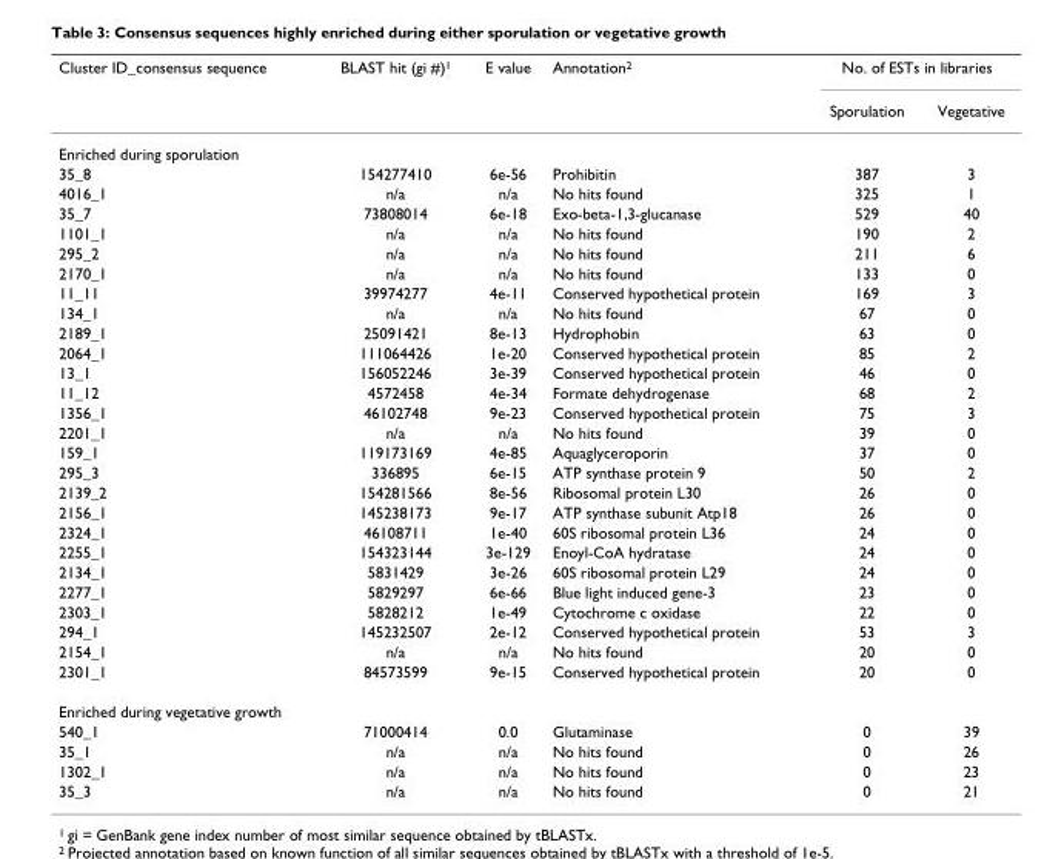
<table><thead><tr><td rowspan="2">Cluster ID_consensus sequence</td><td rowspan="2">BLAST hit (gi #)<sup>1</sup></td><td rowspan="2">E value</td><td rowspan="2">Annotation<sup>2</sup></td><td colspan="2">No. of ESTs in libraries</td></tr><tr><td>Sporulation</td><td>Vegetative</td></tr></thead><tbody><tr><td colspan="6">Enriched during sporulation</td></tr><tr><td>35_8</td><td>154277410</td><td>6e-56</td><td>Prohibitin</td><td>387</td><td>3</td></tr><tr><td>4016_1</td><td>n/a</td><td>n/a</td><td>No hits found</td><td>325</td><td>1</td></tr><tr><td>35_7</td><td>73808014</td><td>6e-18</td><td>Exo-beta-1,3-glucanase</td><td>529</td><td>40</td></tr><tr><td>1101_1</td><td>n/a</td><td>n/a</td><td>No hits found</td><td>190</td><td>2</td></tr><tr><td>295_2</td><td>n/a</td><td>n/a</td><td>No hits found</td><td>211</td><td>6</td></tr><tr><td>2170_1</td><td>n/a</td><td>n/a</td><td>No hits found</td><td>133</td><td>0</td></tr><tr><td>11_11</td><td>39974277</td><td>4e-11</td><td>Conserved hypothetical protein</td><td>169</td><td>3</td></tr><tr><td>134_1</td><td>n/a</td><td>n/a</td><td>No hits found</td><td>67</td><td>0</td></tr><tr><td>2189_1</td><td>25091421</td><td>8e-13</td><td>Hydrophobin</td><td>63</td><td>0</td></tr><tr><td>2064_1</td><td>111064426</td><td>1e-20</td><td>Conserved hypothetical protein</td><td>85</td><td>2</td></tr><tr><td>13_1</td><td>156052246</td><td>3e-39</td><td>Conserved hypothetical protein</td><td>46</td><td>0</td></tr><tr><td>11_12</td><td>4572458</td><td>4e-34</td><td>Formate dehydrogenase</td><td>68</td><td>2</td></tr><tr><td>1356_1</td><td>46102748</td><td>9e-23</td><td>Conserved hypothetical protein</td><td>75</td><td>3</td></tr><tr><td>2201_1</td><td>n/a</td><td>n/a</td><td>No hits found</td><td>39</td><td>0</td></tr><tr><td>159_1</td><td>119173169</td><td>4e-85</td><td>Aquaglyceroporin</td><td>37</td><td>0</td></tr><tr><td>295_3</td><td>336895</td><td>6e-15</td><td>ATP synthase protein 9</td><td>50</td><td>2</td></tr><tr><td>2139_2</td><td>154281566</td><td>8e-56</td><td>Ribosomal protein L30</td><td>26</td><td>0</td></tr><tr><td>2156_1</td><td>145238173</td><td>9e-17</td><td>ATP synthase subunit Atp18</td><td>26</td><td>0</td></tr><tr><td>2324_1</td><td>46108711</td><td>1e-40</td><td>60S ribosomal protein L36</td><td>24</td><td>0</td></tr><tr><td>2255_1</td><td>154323144</td><td>3e-129</td><td>Enoyl-CoA hydratase</td><td>24</td><td>0</td></tr><tr><td>2134_1</td><td>5831429</td><td>3e-26</td><td>60S ribosomal protein L29</td><td>24</td><td>0</td></tr><tr><td>2277_1</td><td>5829297</td><td>6e-66</td><td>Blue light induced gene-3</td><td>23</td><td>0</td></tr><tr><td>2303_1</td><td>5828212</td><td>1e-49</td><td>Cytochrome c oxidase</td><td>22</td><td>0</td></tr><tr><td>294_1</td><td>145232507</td><td>2e-12</td><td>Conserved hypothetical protein</td><td>53</td><td>3</td></tr><tr><td>2154_1</td><td>n/a</td><td>n/a</td><td>No hits found</td><td>20</td><td>0</td></tr><tr><td>2301_1</td><td>84573599</td><td>9e-15</td><td>Conserved hypothetical protein</td><td>20</td><td>0</td></tr><tr><td colspan="6">Enriched during vegetative growth</td></tr><tr><td>540_1</td><td>71000414</td><td>0.0</td><td>Glutaminase</td><td>0</td><td>39</td></tr><tr><td>35_1</td><td>n/a</td><td>n/a</td><td>No hits found</td><td>0</td><td>26</td></tr><tr><td>1302_1</td><td>n/a</td><td>n/a</td><td>No hits found</td><td>0</td><td>23</td></tr><tr><td>35_3</td><td>n/a</td><td>n/a</td><td>No hits found</td><td>0</td><td>21</td></tr></tbody></table>